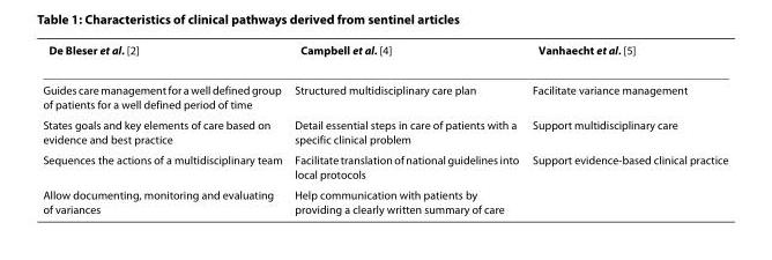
<table><thead><tr><td>De Bleser et al. [2]</td><td>Campbell et al. [4]</td><td>Vanhaecht et al. [5]</td></tr></thead><tbody><tr><td>Guides care management for a well defined group of patients for a well defined period of time</td><td>Structured multidisciplinary care plan</td><td>Facilitate variance management</td></tr><tr><td>States goals and key elements of care based on evidence and best practice</td><td>Detail essential steps in care of patients with a specific clinical problem</td><td>Support multidisciplinary care</td></tr><tr><td>Sequences the actions of a multidisciplinary team</td><td>Facilitate translation of national guidelines into local protocols</td><td>Support evidence-based clinical practice</td></tr><tr><td>Allow documenting, monitoring and evaluating of variances</td><td>Help communication with patients by providing a clearly written summary of care</td><td></td></tr></tbody></table>